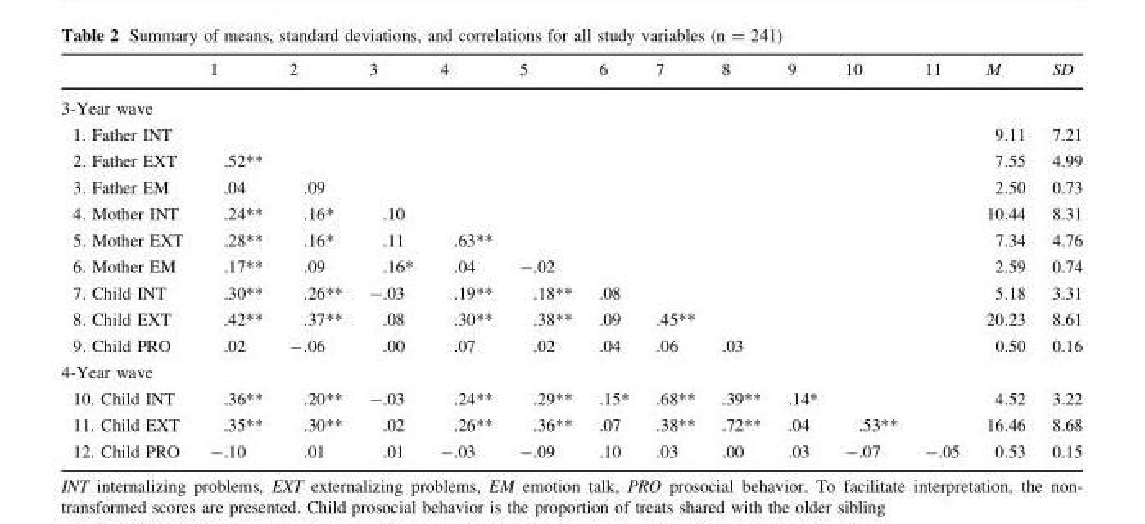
<table><thead><tr><td></td><td>1</td><td>2</td><td>3</td><td>4</td><td>5</td><td>6</td><td>7</td><td>8</td><td>9</td><td>10</td><td>11</td><td>M</td><td>SD</td></tr></thead><tbody><tr><td colspan="14">3-Year wave</td></tr><tr><td>1. Father INT</td><td></td><td></td><td></td><td></td><td></td><td></td><td></td><td></td><td></td><td></td><td></td><td>9.11</td><td>7.21</td></tr><tr><td>2. Father EXT</td><td>.52**</td><td></td><td></td><td></td><td></td><td></td><td></td><td></td><td></td><td></td><td></td><td>7.55</td><td>4.99</td></tr><tr><td>3. Father EM</td><td>.04</td><td>.09</td><td></td><td></td><td></td><td></td><td></td><td></td><td></td><td></td><td></td><td>2.50</td><td>0.73</td></tr><tr><td>4. Mother INT</td><td>.24**</td><td>.16*</td><td>.10</td><td></td><td></td><td></td><td></td><td></td><td></td><td></td><td></td><td>10.44</td><td>8.31</td></tr><tr><td>5. Mother EXT</td><td>.28**</td><td>.16*</td><td>.11</td><td>.63**</td><td></td><td></td><td></td><td></td><td></td><td></td><td></td><td>7.34</td><td>4.76</td></tr><tr><td>6. Mother EM</td><td>.17**</td><td>.09</td><td>.16*</td><td>.04</td><td>-.02</td><td></td><td></td><td></td><td></td><td></td><td></td><td>2.59</td><td>0.74</td></tr><tr><td>7. Child INT</td><td>.30**</td><td>.26**</td><td>-.03</td><td>.19**</td><td>.18**</td><td>.08</td><td></td><td></td><td></td><td></td><td></td><td>5.18</td><td>3.31</td></tr><tr><td>8. Child EXT</td><td>.42**</td><td>.37**</td><td>.08</td><td>.30**</td><td>.38**</td><td>.09</td><td>.45**</td><td></td><td></td><td></td><td></td><td>20.23</td><td>8.61</td></tr><tr><td>9. Child PRO</td><td>.02</td><td>-.06</td><td>.00</td><td>.07</td><td>.02</td><td>.04</td><td>.06</td><td>.03</td><td></td><td></td><td></td><td>0.50</td><td>0.16</td></tr><tr><td colspan="14">4-Year wave</td></tr><tr><td>10. Child INT</td><td>.36**</td><td>.20**</td><td>-.03</td><td>.24**</td><td>.29**</td><td>.15*</td><td>.68**</td><td>.39**</td><td>.14*</td><td></td><td></td><td>4.52</td><td>3.22</td></tr><tr><td>11. Child EXT</td><td>.35**</td><td>.30**</td><td>.02</td><td>.26**</td><td>.36**</td><td>.07</td><td>.38**</td><td>.72**</td><td>.04</td><td>.53**</td><td></td><td>16.46</td><td>8.68</td></tr><tr><td>12. Child PRO</td><td>-.10</td><td>.01</td><td>.01</td><td>-.03</td><td>-.09</td><td>.10</td><td>.03</td><td>.00</td><td>.03</td><td>-.07</td><td>-.05</td><td>0.53</td><td>0.15</td></tr></tbody></table>